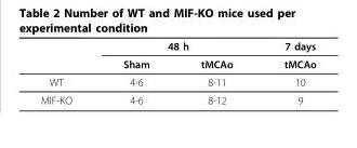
<table><thead><tr><td rowspan="2"></td><td colspan="2">48 h</td><td rowspan="2">7 days tMCAo</td></tr><tr><td>Sham</td><td>tMCAo</td></tr></thead><tbody><tr><td>WT</td><td>4-6</td><td>8-11</td><td>10</td></tr><tr><td>MIF-KO</td><td>4-6</td><td>8-12</td><td>9</td></tr></tbody></table>